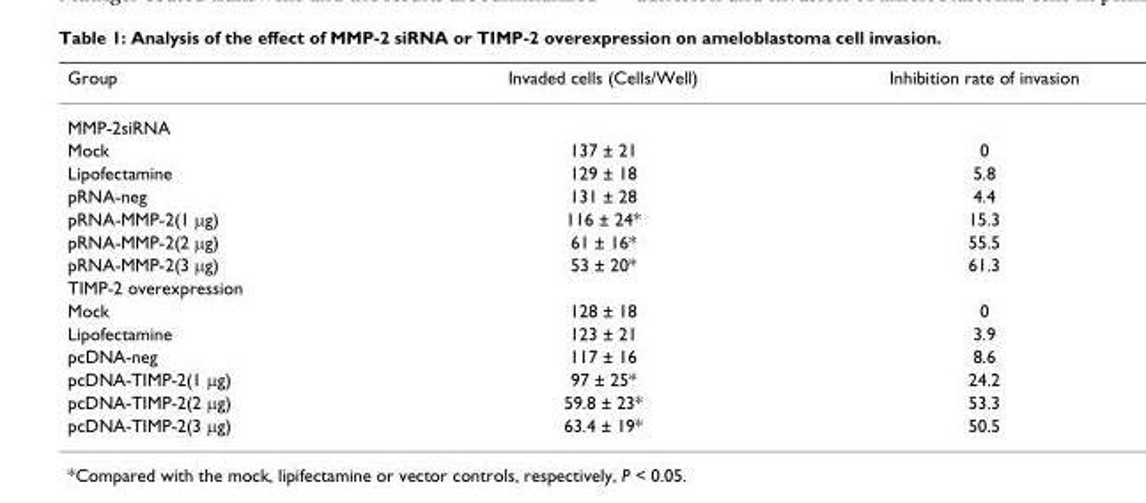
<table><thead><tr><td>Group</td><td>Invaded cells (Cells/Well)</td><td>Inhibition rate of invasion</td></tr></thead><tbody><tr><td colspan="3">MMP-2siRNA</td></tr><tr><td>Mock</td><td>137 ± 21</td><td>0</td></tr><tr><td>Lipofectamine</td><td>129 ± 18</td><td>5.8</td></tr><tr><td>pRNA-neg</td><td>131 ± 28</td><td>4.4</td></tr><tr><td>pRNA-MMP-2(1 μg)</td><td>116 ± 24*</td><td>15.3</td></tr><tr><td>pRNA-MMP-2(2 μg)</td><td>61 ± 16*</td><td>55.5</td></tr><tr><td>pRNA-MMP-2(3 μg)</td><td>53 ± 20*</td><td>61.3</td></tr><tr><td colspan="3">TIMP-2 overexpression</td></tr><tr><td>Mock</td><td>128 ± 18</td><td>0</td></tr><tr><td>Lipofectamine</td><td>123 ± 21</td><td>3.9</td></tr><tr><td>pcDNA-neg</td><td>117 ± 16</td><td>8.6</td></tr><tr><td>pcDNA-TIMP-2(1 μg)</td><td>97 ± 25*</td><td>24.2</td></tr><tr><td>pcDNA-TIMP-2(2 μg)</td><td>59.8 ± 23*</td><td>53.3</td></tr><tr><td>pcDNA-TIMP-2(3 μg)</td><td>63.4 ± 19*</td><td>50.5</td></tr></tbody></table>